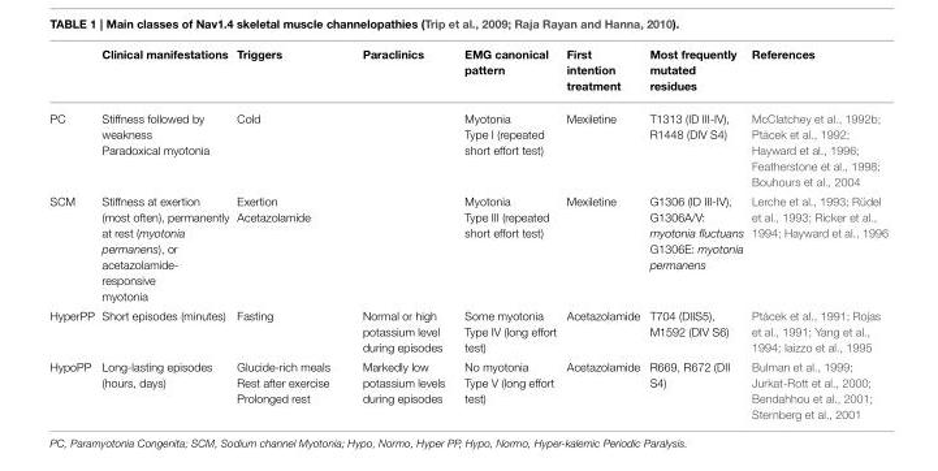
<table><thead><tr><td></td><td>Clinical manifestations</td><td>Triggers</td><td>Paraclinics</td><td>EMG canonical pattern</td><td>First intention treatment</td><td>Most frequently mutated residues</td><td>References</td></tr></thead><tbody><tr><td>PC</td><td>Stiffness followed by weakness Paradoxical myotonia</td><td>Cold</td><td></td><td>Myotonia Type I (repeated short effort test)</td><td>Mexiletine</td><td>T1313 (ID III-IV), R1448 (DIV S4)</td><td>McClatchey et al., 1992b; Ptácek et al., 1992; Hayward et al., 1996; Featherstone et al., 1998; Bouhours et al., 2004</td></tr><tr><td>SCM</td><td>Stiffness at exertion (most often), permanently at rest (myotonia permanens), or acetazolamide- responsive myotonia</td><td>Exertion Acetazolamide</td><td></td><td>Myotonia Type III (repeated short effort test)</td><td>Mexiletine</td><td>G1306 (ID III-IV), G1306A/V: myotonia fluctuans G1306E: myotonia permanens</td><td>Lerche et al., 1993; Rüdel et al., 1993; Ricker et al., 1994; Hayward et al., 1996</td></tr><tr><td>HyperPP</td><td>Short episodes (minutes)</td><td>Fasting</td><td>Normal or high potassium level during episodes</td><td>Some myotonia Type IV (long effort test)</td><td>Acetazolamide</td><td>T704 (DIIS5), M1592 (DIV S6)</td><td>Ptácek et al., 1991; Rojas et al., 1991; Yang et al., 1994; Iaizzo et al., 1995</td></tr><tr><td>HypoPP</td><td>Long-lasting episodes (hours, days)</td><td>Glucide-rich meals Rest after exercise Prolonged rest</td><td>Markedly low potassium levels during episodes</td><td>No myotonia Type V (long effort test)</td><td>Acetazolamide</td><td>R669, R672 (DII S4)</td><td>Bulman et al., 1999; Jurkat-Rott et al., 2000; Bendahhou et al., 2001; Sternberg et al., 2001</td></tr></tbody></table>